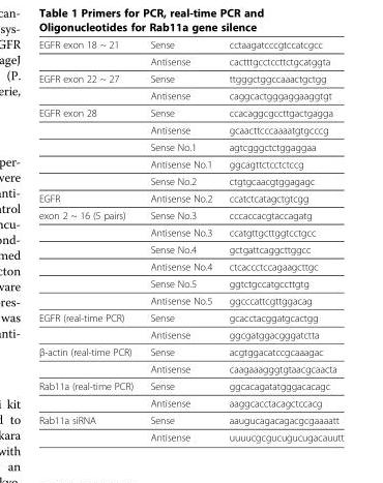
<table><tbody><tr><td rowspan="2">EGFR exon 18 ~ 21</td><td>Sense</td><td>cctaagatcccgtccatcgcc</td></tr><tr><td>Antisense</td><td>cactttgcctccttctgcatggta</td></tr><tr><td rowspan="2">EGFR exon 22 ~ 27</td><td>Sense</td><td>ttgggctggccaaactgctgg</td></tr><tr><td>Antisense</td><td>caggcactgggaggaaggtgt</td></tr><tr><td rowspan="5">EGFR exon 28</td><td>Sense</td><td>ccacaggcgccttgactgagga</td></tr><tr><td>Antisense</td><td>gcaacttcccaaaatgtgcccg</td></tr><tr><td>Sense No.1</td><td>agtcgggctctggaggaa</td></tr><tr><td>Antisense No.1</td><td>ggcagttctcctctccg</td></tr><tr><td>Sense No.2</td><td>ctgtgcaacgtggagagc</td></tr><tr><td>EGFR</td><td>Antisense No.2</td><td>ccatctcatagctgtcgg</td></tr><tr><td rowspan="6">exon 2 ~ 16 (5 pairs)</td><td>Sense No.3</td><td>cccaccacgtaccagatg</td></tr><tr><td>Antisense No.3</td><td>ccatgttgcttggtcctgcc</td></tr><tr><td>Sense No.4</td><td>gctgattcaggcttggcc</td></tr><tr><td>Antisense No.4</td><td>ctcaccctccagaagcttgc</td></tr><tr><td>Sense No.5</td><td>ggtctgccatgccttgtg</td></tr><tr><td>Antisense No.5</td><td>ggcccattcgttggacag</td></tr><tr><td rowspan="2">EGFR (real-time PCR)</td><td>Sense</td><td>gcacctacggatgcactgg</td></tr><tr><td>Antisense</td><td>ggcgatggacgggatctta</td></tr><tr><td rowspan="2">β-actin (real-time PCR)</td><td>Sense</td><td>acgtggacatccgcaaagac</td></tr><tr><td>Antisense</td><td>caagaaagggtgtaacgcaacta</td></tr><tr><td rowspan="2">Rab11a (real-time PCR)</td><td>Sense</td><td>ggcacagatatgggacacagc</td></tr><tr><td>Antisense</td><td>aaggcacctacagctccacg</td></tr><tr><td rowspan="2">Rab11a siRNA</td><td>Sense</td><td>aaugucagacagacgcgaaaatt</td></tr><tr><td>Antisense</td><td>uuuucgcgucugucugacauutt</td></tr></tbody></table>